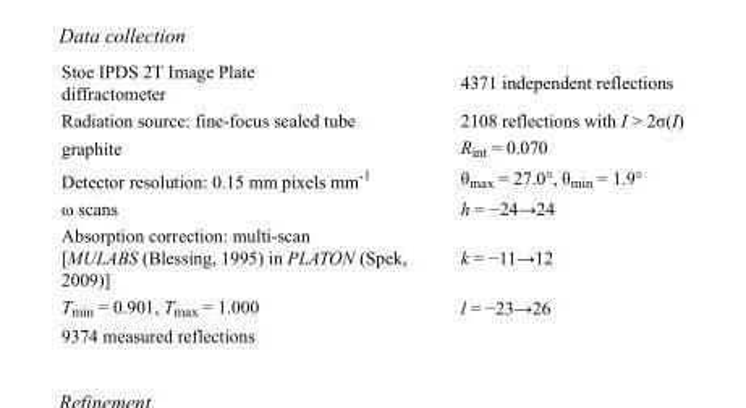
<table><tbody><tr><td>Stoe IPDS 2T Image Plate diffractometer</td><td>4371 independent reflections</td></tr><tr><td>Radiation source: fine-focus sealed tube</td><td>2108 reflections with I &gt; 2σ(I)</td></tr><tr><td>graphite</td><td>R<sub>int</sub> = 0.070</td></tr><tr><td>Detector resolution: 0.15 mm pixels mm<sup>-1</sup></td><td>θ<sub>max</sub> = 27.0°, θ<sub>min</sub> = 1.9°</td></tr><tr><td>ω scans</td><td>h = −24→24</td></tr><tr><td>Absorption correction: multi-scan [MULABS (Blessing, 1995) in PLATON (Spek, 2009)]</td><td>k = −11→12</td></tr><tr><td>T<sub>min</sub> = 0.901, T<sub>max</sub> = 1.000</td><td>l = −23→26</td></tr><tr><td>9374 measured reflections</td><td></td></tr></tbody></table>